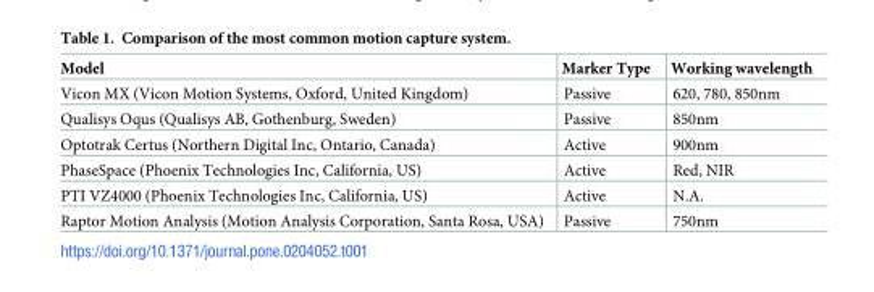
<table><thead><tr><td>Model</td><td>Marker Type</td><td>Working wavelength</td></tr></thead><tbody><tr><td>Vicon MX (Vicon Motion Systems, Oxford, United Kingdom)</td><td>Passive</td><td>620, 780, 850nm</td></tr><tr><td>Qualisys Oqus (Qualisys AB, Gothenburg, Sweden)</td><td>Passive</td><td>850nm</td></tr><tr><td>Optotrak Certus (Northern Digital Inc, Ontario, Canada)</td><td>Active</td><td>900nm</td></tr><tr><td>PhaseSpace (Phoenix Technologies Inc, California, US)</td><td>Active</td><td>Red, NIR</td></tr><tr><td>PTI VZ4000 (Phoenix Technologies Inc, California, US)</td><td>Active</td><td>N.A.</td></tr><tr><td>Raptor Motion Analysis (Motion Analysis Corporation, Santa Rosa, USA)</td><td>Passive</td><td>750nm</td></tr></tbody></table>